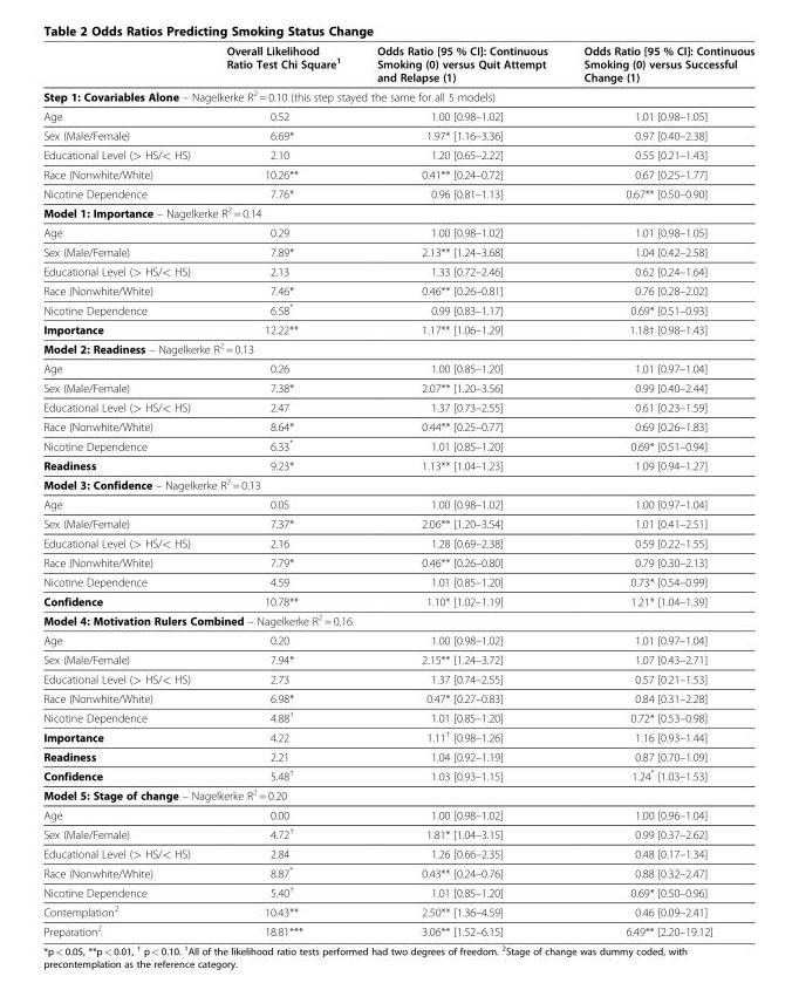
<table><thead><tr><td></td><td>Overall Likelihood Ratio Test Chi Square<sup>1</sup></td><td>Odds Ratio [95 % CI]: Continuous Smoking (0) versus Quit Attempt and Relapse (1)</td><td>Odds Ratio [95 % CI]: Continuous Smoking (0) versus Successful Change (1)</td></tr></thead><tbody><tr><td colspan="4">Step 1: Covariables Alone – Nagelkerke R<sup>2</sup> = 0.10 (this step stayed the same for all 5 models)</td></tr><tr><td>Age</td><td>0.52</td><td>1.00 [0.98–1.02]</td><td>1.01 [0.98–1.05]</td></tr><tr><td>Sex (Male/Female)</td><td>6.69*</td><td>1.97* [1.16–3.36]</td><td>0.97 [0.40–2.38]</td></tr><tr><td>Educational Level (&gt; HS/&lt; HS)</td><td>2.10</td><td>1.20 [0.65–2.22]</td><td>0.55 [0.21–1.43]</td></tr><tr><td>Race (Nonwhite/White)</td><td>10.26**</td><td>0.41** [0.24–0.72]</td><td>0.67 [0.25–1.77]</td></tr><tr><td>Nicotine Dependence</td><td>7.76*</td><td>0.96 [0.81–1.13]</td><td>0.67** [0.50–0.90]</td></tr><tr><td colspan="4">Model 1: Importance – Nagelkerke R<sup>2</sup> = 0.14</td></tr><tr><td>Age</td><td>0.29</td><td>1.00 [0.98–1.02]</td><td>1.01 [0.98–1.05]</td></tr><tr><td>Sex (Male/Female)</td><td>7.89*</td><td>2.13** [1.24–3.68]</td><td>1.04 [0.42–2.58]</td></tr><tr><td>Educational Level (&gt; HS/&lt; HS)</td><td>2.13</td><td>1.33 [0.72–2.46]</td><td>0.62 [0.24–1.64]</td></tr><tr><td>Race (Nonwhite/White)</td><td>7.46*</td><td>0.46** [0.26–0.81]</td><td>0.76 [0.28–2.02]</td></tr><tr><td>Nicotine Dependence</td><td>6.58*</td><td>0.99 [0.83–1.17]</td><td>0.69* [0.51–0.93]</td></tr><tr><td>Importance</td><td>12.22**</td><td>1.17** [1.06–1.29]</td><td>1.18† [0.98–1.43]</td></tr><tr><td colspan="4">Model 2: Readiness – Nagelkerke R<sup>2</sup> = 0.13</td></tr><tr><td>Age</td><td>0.26</td><td>1.00 [0.85–1.20]</td><td>1.01 [0.97–1.04]</td></tr><tr><td>Sex (Male/Female)</td><td>7.38*</td><td>2.07** [1.20–3.56]</td><td>0.99 [0.40–2.44]</td></tr><tr><td>Educational Level (&gt; HS/&lt; HS)</td><td>2.47</td><td>1.37 [0.73–2.55]</td><td>0.61 [0.23–1.59]</td></tr><tr><td>Race (Nonwhite/White)</td><td>8.64*</td><td>0.44** [0.25–0.77]</td><td>0.69 [0.26–1.83]</td></tr><tr><td>Nicotine Dependence</td><td>6.33*</td><td>1.01 [0.85–1.20]</td><td>0.69* [0.51–0.94]</td></tr><tr><td>Readiness</td><td>9.23*</td><td>1.13** [1.04–1.23]</td><td>1.09 [0.94–1.27]</td></tr><tr><td colspan="4">Model 3: Confidence – Nagelkerke R<sup>2</sup> = 0.13</td></tr><tr><td>Age</td><td>0.05</td><td>1.00 [0.98–1.02]</td><td>1.00 [0.97–1.04]</td></tr><tr><td>Sex (Male/Female)</td><td>7.37*</td><td>2.06** [1.20–3.54]</td><td>1.01 [0.41–2.51]</td></tr><tr><td>Educational Level (&gt; HS/&lt; HS)</td><td>2.16</td><td>1.28 [0.69–2.38]</td><td>0.59 [0.22–1.55]</td></tr><tr><td>Race (Nonwhite/White)</td><td>7.79*</td><td>0.46** [0.26–0.80]</td><td>0.79 [0.30–2.13]</td></tr><tr><td>Nicotine Dependence</td><td>4.59</td><td>1.01 [0.85–1.20]</td><td>0.73* [0.54–0.99]</td></tr><tr><td>Confidence</td><td>10.78**</td><td>1.10* [1.02–1.19]</td><td>1.21* [1.04–1.39]</td></tr><tr><td colspan="4">Model 4: Motivation Rulers Combined – Nagelkerke R<sup>2</sup> = 0.16</td></tr><tr><td>Age</td><td>0.20</td><td>1.00 [0.98–1.02]</td><td>1.01 [0.97–1.04]</td></tr><tr><td>Sex (Male/Female)</td><td>7.94*</td><td>2.15** [1.24–3.72]</td><td>1.07 [0.43–2.71]</td></tr><tr><td>Educational Level (&gt; HS/&lt; HS)</td><td>2.73</td><td>1.37 [0.74–2.55]</td><td>0.57 [0.21–1.53]</td></tr><tr><td>Race (Nonwhite/White)</td><td>6.98*</td><td>0.47* [0.27–0.83]</td><td>0.84 [0.31–2.28]</td></tr><tr><td>Nicotine Dependence</td><td>4.88<sup>†</sup></td><td>1.01 [0.85–1.20]</td><td>0.72* [0.53–0.98]</td></tr><tr><td>Importance</td><td>4.22</td><td>1.11<sup>†</sup> [0.98–1.26]</td><td>1.16 [0.93–1.44]</td></tr><tr><td>Readiness</td><td>2.21</td><td>1.04 [0.92–1.19]</td><td>0.87 [0.70–1.09]</td></tr><tr><td>Confidence</td><td>5.48<sup>†</sup></td><td>1.03 [0.93–1.15]</td><td>1.24* [1.03–1.53]</td></tr><tr><td colspan="4">Model 5: Stage of change – Nagelkerke R<sup>2</sup> = 0.20</td></tr><tr><td>Age</td><td>0.00</td><td>1.00 [0.98–1.02]</td><td>1.00 [0.96–1.04]</td></tr><tr><td>Sex (Male/Female)</td><td>4.72<sup>†</sup></td><td>1.81* [1.04–3.15]</td><td>0.99 [0.37–2.62]</td></tr><tr><td>Educational Level (&gt; HS/&lt; HS)</td><td>2.84</td><td>1.26 [0.66–2.35]</td><td>0.48 [0.17–1.34]</td></tr><tr><td>Race (Nonwhite/White)</td><td>8.87*</td><td>0.43** [0.24–0.76]</td><td>0.88 [0.32–2.47]</td></tr><tr><td>Nicotine Dependence</td><td>5.40<sup>†</sup></td><td>1.01 [0.85–1.20]</td><td>0.69* [0.50–0.96]</td></tr><tr><td>Contemplation<sup>2</sup></td><td>10.43**</td><td>2.50** [1.36–4.59]</td><td>0.46 [0.09–2.41]</td></tr><tr><td>Preparation<sup>2</sup></td><td>18.81***</td><td>3.06** [1.52–6.15]</td><td>6.49** [2.20–19.12]</td></tr></tbody></table>